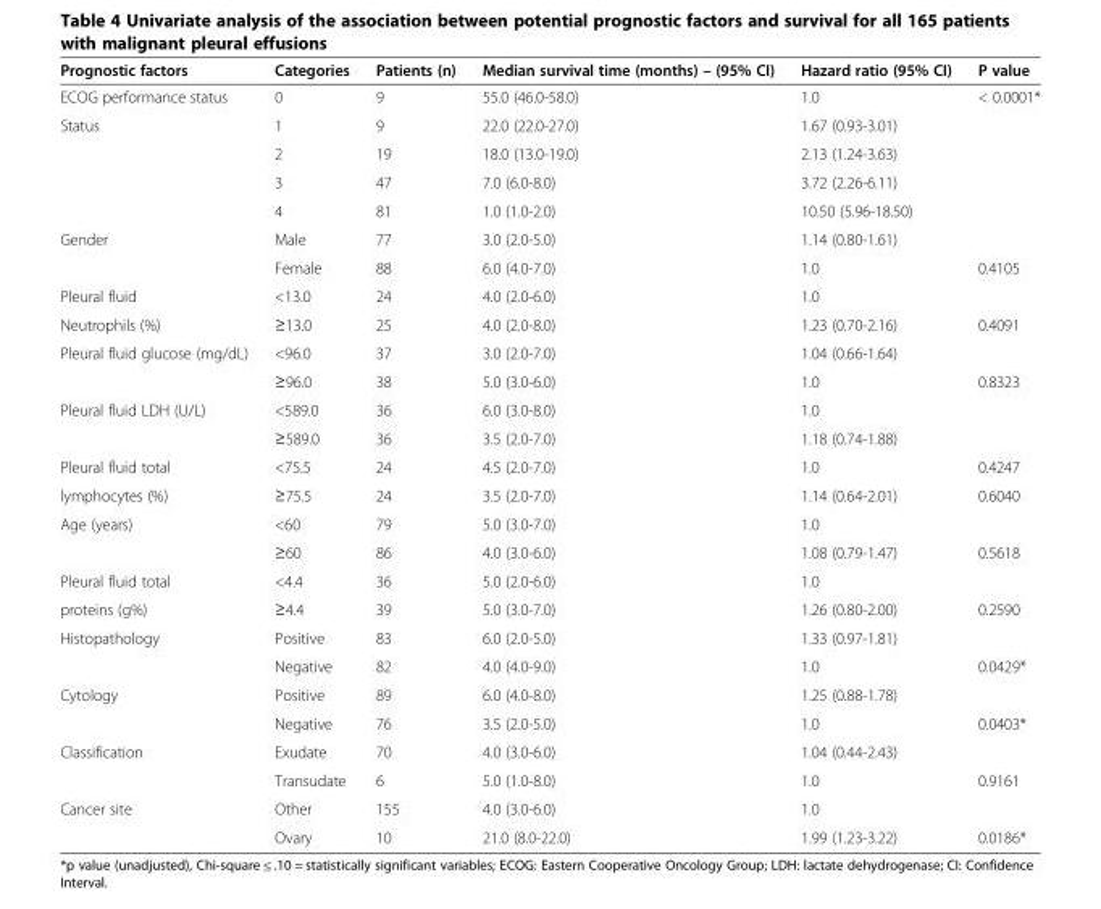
<table><thead><tr><td>Prognostic factors</td><td>Categories</td><td>Patients (n)</td><td>Median survival time (months) – (95% CI)</td><td>Hazard ratio (95% CI)</td><td>P value</td></tr></thead><tbody><tr><td>ECOG performance status</td><td>0</td><td>9</td><td>55.0 (46.0-58.0)</td><td>1.0</td><td>&lt; 0.0001*</td></tr><tr><td rowspan="4">Status</td><td>1</td><td>9</td><td>22.0 (22.0-27.0)</td><td>1.67 (0.93-3.01)</td><td></td></tr><tr><td>2</td><td>19</td><td>18.0 (13.0-19.0)</td><td>2.13 (1.24-3.63)</td><td></td></tr><tr><td>3</td><td>47</td><td>7.0 (6.0-8.0)</td><td>3.72 (2.26-6.11)</td><td></td></tr><tr><td>4</td><td>81</td><td>1.0 (1.0-2.0)</td><td>10.50 (5.96-18.50)</td><td></td></tr><tr><td rowspan="2">Gender</td><td>Male</td><td>77</td><td>3.0 (2.0-5.0)</td><td>1.14 (0.80-1.61)</td><td></td></tr><tr><td>Female</td><td>88</td><td>6.0 (4.0-7.0)</td><td>1.0</td><td>0.4105</td></tr><tr><td>Pleural fluid</td><td>&lt;13.0</td><td>24</td><td>4.0 (2.0-6.0)</td><td>1.0</td><td></td></tr><tr><td>Neutrophils (%)</td><td>≥13.0</td><td>25</td><td>4.0 (2.0-8.0)</td><td>1.23 (0.70-2.16)</td><td>0.4091</td></tr><tr><td rowspan="2">Pleural fluid glucose (mg/dL)</td><td>&lt;96.0</td><td>37</td><td>3.0 (2.0-7.0)</td><td>1.04 (0.66-1.64)</td><td></td></tr><tr><td>≥96.0</td><td>38</td><td>5.0 (3.0-6.0)</td><td>1.0</td><td>0.8323</td></tr><tr><td rowspan="2">Pleural fluid LDH (U/L)</td><td>&lt;589.0</td><td>36</td><td>6.0 (3.0-8.0)</td><td>1.0</td><td></td></tr><tr><td>≥589.0</td><td>36</td><td>3.5 (2.0-7.0)</td><td>1.18 (0.74-1.88)</td><td></td></tr><tr><td>Pleural fluid total</td><td>&lt;75.5</td><td>24</td><td>4.5 (2.0-7.0)</td><td>1.0</td><td>0.4247</td></tr><tr><td>lymphocytes (%)</td><td>≥75.5</td><td>24</td><td>3.5 (2.0-7.0)</td><td>1.14 (0.64-2.01)</td><td>0.6040</td></tr><tr><td rowspan="2">Age (years)</td><td>&lt;60</td><td>79</td><td>5.0 (3.0-7.0)</td><td>1.0</td><td></td></tr><tr><td>≥60</td><td>86</td><td>4.0 (3.0-6.0)</td><td>1.08 (0.79-1.47)</td><td>0.5618</td></tr><tr><td>Pleural fluid total</td><td>&lt;4.4</td><td>36</td><td>5.0 (2.0-6.0)</td><td>1.0</td><td></td></tr><tr><td>proteins (g%)</td><td>≥4.4</td><td>39</td><td>5.0 (3.0-7.0)</td><td>1.26 (0.80-2.00)</td><td>0.2590</td></tr><tr><td rowspan="2">Histopathology</td><td>Positive</td><td>83</td><td>6.0 (2.0-5.0)</td><td>1.33 (0.97-1.81)</td><td></td></tr><tr><td>Negative</td><td>82</td><td>4.0 (4.0-9.0)</td><td>1.0</td><td>0.0429*</td></tr><tr><td rowspan="2">Cytology</td><td>Positive</td><td>89</td><td>6.0 (4.0-8.0)</td><td>1.25 (0.88-1.78)</td><td></td></tr><tr><td>Negative</td><td>76</td><td>3.5 (2.0-5.0)</td><td>1.0</td><td>0.0403*</td></tr><tr><td rowspan="2">Classification</td><td>Exudate</td><td>70</td><td>4.0 (3.0-6.0)</td><td>1.04 (0.44-2.43)</td><td></td></tr><tr><td>Transudate</td><td>6</td><td>5.0 (1.0-8.0)</td><td>1.0</td><td>0.9161</td></tr><tr><td rowspan="2">Cancer site</td><td>Other</td><td>155</td><td>4.0 (3.0-6.0)</td><td>1.0</td><td></td></tr><tr><td>Ovary</td><td>10</td><td>21.0 (8.0-22.0)</td><td>1.99 (1.23-3.22)</td><td>0.0186*</td></tr></tbody></table>